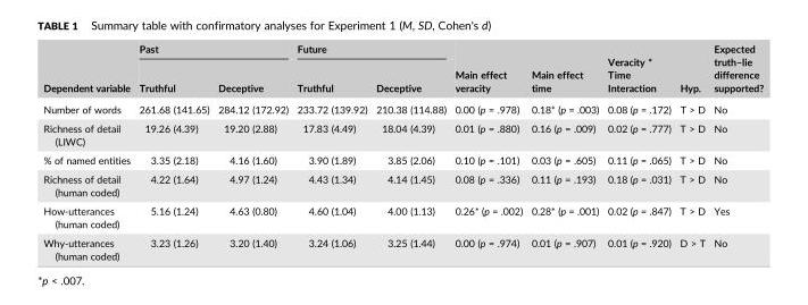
<table><thead><tr><td rowspan="2">Dependent variable</td><td colspan="2">Past</td><td colspan="2">Future</td><td rowspan="2">Main effect veracity</td><td rowspan="2">Main effect time</td><td rowspan="2">Veracity * Time Interaction</td><td rowspan="2">Hyp.</td><td rowspan="2">Expected truth–lie difference supported?</td></tr><tr><td>Truthful</td><td>Deceptive</td><td>Truthful</td><td>Deceptive</td></tr></thead><tbody><tr><td>Number of words</td><td>261.68 (141.65)</td><td>284.12 (172.92)</td><td>233.72 (139.92)</td><td>210.38 (114.88)</td><td>0.00 (p = .978)</td><td>0.18* (p = .003)</td><td>0.08 (p = .172)</td><td>T &gt; D</td><td>No</td></tr><tr><td>Richness of detail (LIWC)</td><td>19.26 (4.39)</td><td>19.20 (2.88)</td><td>17.83 (4.49)</td><td>18.04 (4.39)</td><td>0.01 (p = .880)</td><td>0.16 (p = .009)</td><td>0.02 (p = .777)</td><td>T &gt; D</td><td>No</td></tr><tr><td>% of named entities</td><td>3.35 (2.18)</td><td>4.16 (1.60)</td><td>3.90 (1.89)</td><td>3.85 (2.06)</td><td>0.10 (p = .101)</td><td>0.03 (p = .605)</td><td>0.11 (p = .065)</td><td>T &gt; D</td><td>No</td></tr><tr><td>Richness of detail (human coded)</td><td>4.22 (1.64)</td><td>4.97 (1.24)</td><td>4.43 (1.34)</td><td>4.14 (1.45)</td><td>0.08 (p = .336)</td><td>0.11 (p = .193)</td><td>0.18 (p = .031)</td><td>T &gt; D</td><td>No</td></tr><tr><td>How‐utterances (human coded)</td><td>5.16 (1.24)</td><td>4.63 (0.80)</td><td>4.60 (1.04)</td><td>4.00 (1.13)</td><td>0.26* (p = .002)</td><td>0.28* (p = .001)</td><td>0.02 (p = .847)</td><td>T &gt; D</td><td>Yes</td></tr><tr><td>Why‐utterances (human coded)</td><td>3.23 (1.26)</td><td>3.20 (1.40)</td><td>3.24 (1.06)</td><td>3.25 (1.44)</td><td>0.00 (p = .974)</td><td>0.01 (p = .907)</td><td>0.01 (p = .920)</td><td>D &gt; T</td><td>No</td></tr></tbody></table>